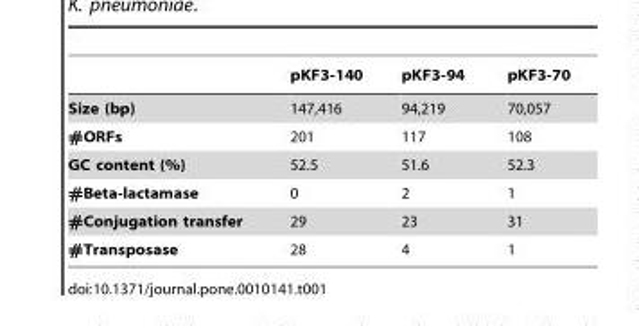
<table><thead><tr><td></td><td>pKF3-140</td><td>pKF3-94</td><td>pKF3-70</td></tr></thead><tbody><tr><td>Size (bp)</td><td>147,416</td><td>94,219</td><td>70,057</td></tr><tr><td>#ORFs</td><td>201</td><td>117</td><td>108</td></tr><tr><td>GC content (%)</td><td>52.5</td><td>51.6</td><td>52.3</td></tr><tr><td>#Beta-lactamase</td><td>0</td><td>2</td><td>1</td></tr><tr><td>#Conjugation transfer</td><td>29</td><td>23</td><td>31</td></tr><tr><td>#Transposase</td><td>28</td><td>4</td><td>1</td></tr></tbody></table>